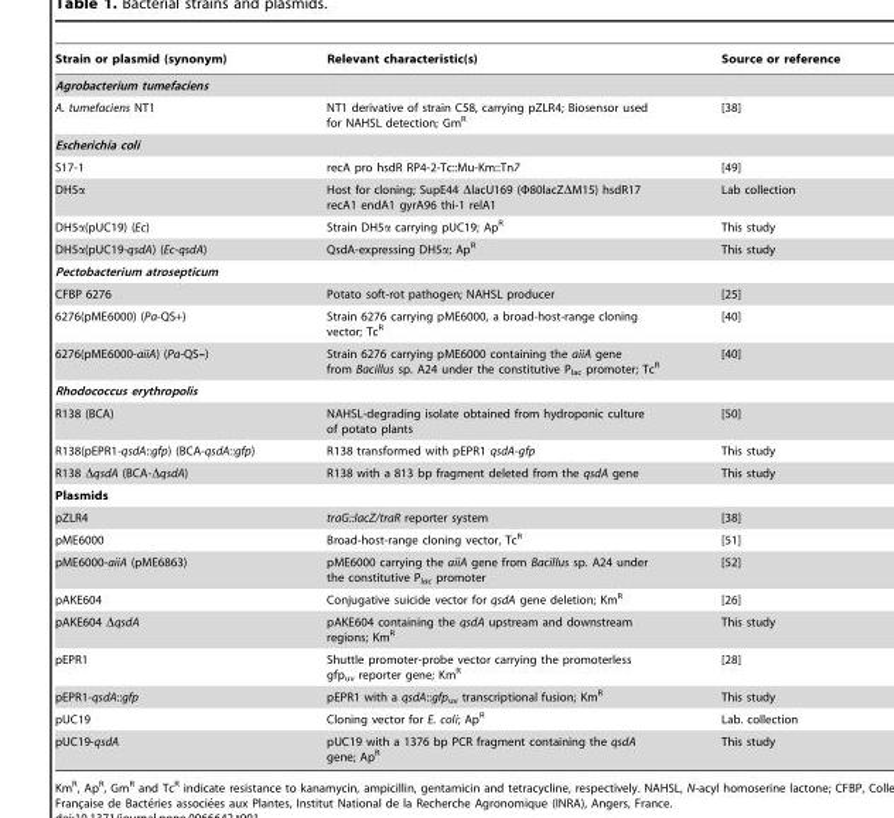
<table><thead><tr><td>Strain or plasmid (synonym)</td><td>Relevant characteristic(s)</td><td>Source or reference</td></tr></thead><tbody><tr><td colspan="3">Agrobacterium tumefaciens</td></tr><tr><td>A. tumefaciens NT1</td><td>NT1 derivative of strain C58, carrying pZLR4; Biosensor used for NAHSL detection; Gm<sup>R</sup></td><td>[38]</td></tr><tr><td colspan="3">Escherichia coli</td></tr><tr><td>S17-1</td><td>recA pro hsdR RP4-2-Tc::Mu-Km::Tn7</td><td>[49]</td></tr><tr><td>DH5α</td><td>Host for cloning; SupE44 ΔlacU169 (Φ80lacZΔM15) hsdR17 recA1 endA1 gyrA96 thi-1 relA1</td><td>Lab collection</td></tr><tr><td>DH5α(pUC19) (Ec)</td><td>Strain DH5α carrying pUC19; Ap<sup>R</sup></td><td>This study</td></tr><tr><td>DH5α(pUC19-qsdA) (Ec-qsdA)</td><td>QsdA-expressing DH5α; Ap<sup>R</sup></td><td>This study</td></tr><tr><td colspan="3">Pectobacterium atrosepticum</td></tr><tr><td>CFBP 6276</td><td>Potato soft-rot pathogen; NAHSL producer</td><td>[25]</td></tr><tr><td>6276(pME6000) (Pa-QS+)</td><td>Strain 6276 carrying pME6000, a broad-host-range cloning vector; Tc<sup>R</sup></td><td>[40]</td></tr><tr><td>6276(pME6000-aiiA) (Pa-QS–)</td><td>Strain 6276 carrying pME6000 containing the aiiA gene from Bacillus sp. A24 under the constitutive P<sub>lac</sub> promoter; Tc<sup>R</sup></td><td>[40]</td></tr><tr><td colspan="3">Rhodococcus erythropolis</td></tr><tr><td>R138 (BCA)</td><td>NAHSL-degrading isolate obtained from hydroponic culture of potato plants</td><td>[50]</td></tr><tr><td>R138(pEPR1-qsdA::gfp) (BCA-qsdA::gfp)</td><td>R138 transformed with pEPR1 qsdA-gfp</td><td>This study</td></tr><tr><td>R138 ΔqsdA (BCA-ΔqsdA)</td><td>R138 with a 813 bp fragment deleted from the qsdA gene</td><td>This study</td></tr><tr><td colspan="3">Plasmids</td></tr><tr><td>pZLR4</td><td>traG::lacZ/traR reporter system</td><td>[38]</td></tr><tr><td>pME6000</td><td>Broad-host-range cloning vector, Tc<sup>R</sup></td><td>[51]</td></tr><tr><td>pME6000-aiiA (pME6863)</td><td>pME6000 carrying the aiiA gene from Bacillus sp. A24 under the constitutive P<sub>lac</sub> promoter</td><td>[52]</td></tr><tr><td>pAKE604</td><td>Conjugative suicide vector for qsdA gene deletion; Km<sup>R</sup></td><td>[26]</td></tr><tr><td>pAKE604 ΔqsdA</td><td>pAKE604 containing the qsdA upstream and downstream regions; Km<sup>R</sup></td><td>This study</td></tr><tr><td>pEPR1</td><td>Shuttle promoter-probe vector carrying the promoterless gfp<sub>uv</sub> reporter gene; Km<sup>R</sup></td><td>[28]</td></tr><tr><td>pEPR1-qsdA::gfp</td><td>pEPR1 with a qsdA::gfp<sub>uv</sub> transcriptional fusion; Km<sup>R</sup></td><td>This study</td></tr><tr><td>pUC19</td><td>Cloning vector for E. coli; Ap<sup>R</sup></td><td>Lab. collection</td></tr><tr><td>pUC19-qsdA</td><td>pUC19 with a 1376 bp PCR fragment containing the qsdA gene; Ap<sup>R</sup></td><td>This study</td></tr></tbody></table>